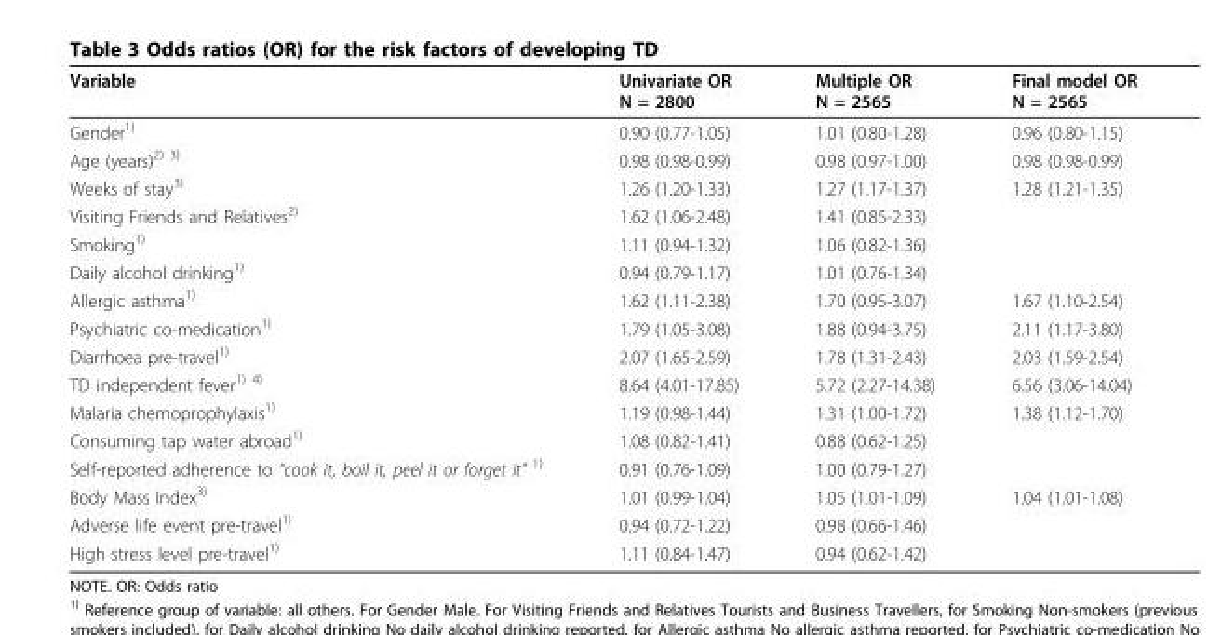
<table><thead><tr><td>Variable</td><td>Univariate OR N = 2800</td><td>Multiple OR N = 2565</td><td>Final model OR N = 2565</td></tr></thead><tbody><tr><td>Gender<sup>1)</sup></td><td>0.90 (0.77-1.05)</td><td>1.01 (0.80-1.28)</td><td>0.96 (0.80-1.15)</td></tr><tr><td>Age (years)<sup>2) 3)</sup></td><td>0.98 (0.98-0.99)</td><td>0.98 (0.97-1.00)</td><td>0.98 (0.98-0.99)</td></tr><tr><td>Weeks of stay<sup>3)</sup></td><td>1.26 (1.20-1.33)</td><td>1.27 (1.17-1.37)</td><td>1.28 (1.21-1.35)</td></tr><tr><td>Visiting Friends and Relatives<sup>2)</sup></td><td>1.62 (1.06-2.48)</td><td>1.41 (0.85-2.33)</td><td></td></tr><tr><td>Smoking<sup>1)</sup></td><td>1.11 (0.94-1.32)</td><td>1.06 (0.82-1.36)</td><td></td></tr><tr><td>Daily alcohol drinking<sup>1)</sup></td><td>0.94 (0.79-1.17)</td><td>1.01 (0.76-1.34)</td><td></td></tr><tr><td>Allergic asthma<sup>1)</sup></td><td>1.62 (1.11-2.38)</td><td>1.70 (0.95-3.07)</td><td>1.67 (1.10-2.54)</td></tr><tr><td>Psychiatric co-medication<sup>1)</sup></td><td>1.79 (1.05-3.08)</td><td>1.88 (0.94-3.75)</td><td>2.11 (1.17-3.80)</td></tr><tr><td>Diarrhoea pre-travel<sup>1)</sup></td><td>2.07 (1.65-2.59)</td><td>1.78 (1.31-2.43)</td><td>2.03 (1.59-2.54)</td></tr><tr><td>TD independent fever<sup>1) 4)</sup></td><td>8.64 (4.01-17.85)</td><td>5.72 (2.27-14.38)</td><td>6.56 (3.06-14.04)</td></tr><tr><td>Malaria chemoprophylaxis<sup>1)</sup></td><td>1.19 (0.98-1.44)</td><td>1.31 (1.00-1.72)</td><td>1.38 (1.12-1.70)</td></tr><tr><td>Consuming tap water abroad<sup>1)</sup></td><td>1.08 (0.82-1.41)</td><td>0.88 (0.62-1.25)</td><td></td></tr><tr><td>Self-reported adherence to “cook it, boil it, peel it or forget it” 1)</td><td>0.91 (0.76-1.09)</td><td>1.00 (0.79-1.27)</td><td></td></tr><tr><td>Body Mass Index<sup>3)</sup></td><td>1.01 (0.99-1.04)</td><td>1.05 (1.01-1.09)</td><td>1.04 (1.01-1.08)</td></tr><tr><td>Adverse life event pre-travel<sup>1)</sup></td><td>0.94 (0.72-1.22)</td><td>0.98 (0.66-1.46)</td><td></td></tr><tr><td>High stress level pre-travel<sup>1)</sup></td><td>1.11 (0.84-1.47)</td><td>0.94 (0.62-1.42)</td><td></td></tr></tbody></table>